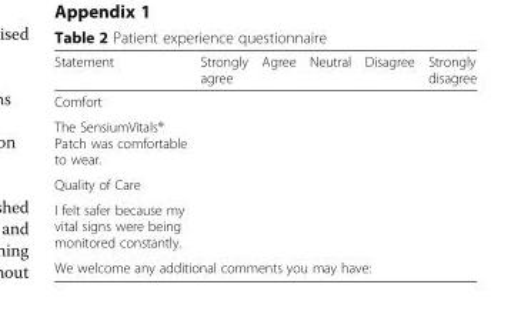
<table><thead><tr><td>Statement</td><td>Strongly agree</td><td>Agree</td><td>Neutral</td><td>Disagree</td><td>Strongly disagree</td></tr></thead><tbody><tr><td colspan="6">Comfort</td></tr><tr><td colspan="6">The SensiumVitals® Patch was comfortable to wear.</td></tr><tr><td colspan="6">Quality of Care</td></tr><tr><td colspan="6">I felt safer because my vital signs were being monitored constantly.</td></tr><tr><td colspan="6">We welcome any additional comments you may have:</td></tr></tbody></table>